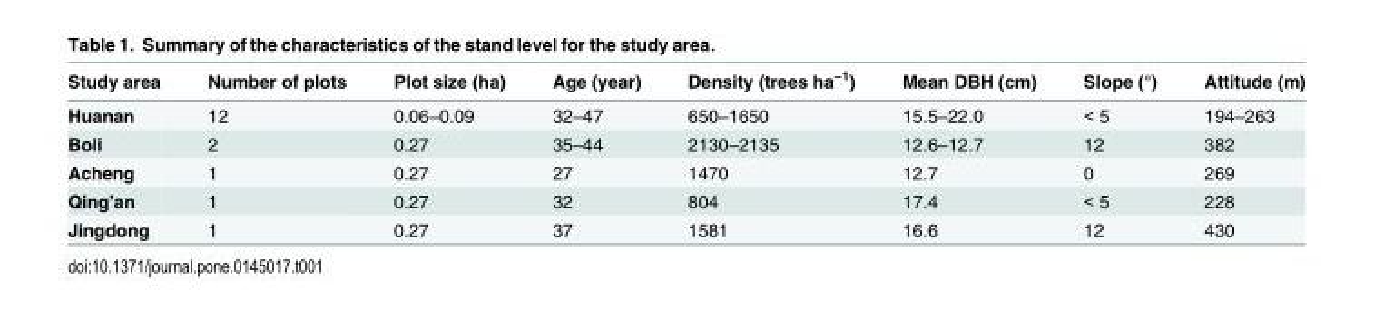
<table><thead><tr><td>Study area</td><td>Number of plots</td><td>Plot size (ha)</td><td>Age (year)</td><td>Density (trees ha<sup>−1</sup>)</td><td>Mean DBH (cm)</td><td>Slope (°)</td><td>Attitude (m)</td></tr></thead><tbody><tr><td>Huanan</td><td>12</td><td>0.06–0.09</td><td>32–47</td><td>650–1650</td><td>15.5–22.0</td><td>&lt; 5</td><td>194–263</td></tr><tr><td>Boli</td><td>2</td><td>0.27</td><td>35–44</td><td>2130–2135</td><td>12.6–12.7</td><td>12</td><td>382</td></tr><tr><td>Acheng</td><td>1</td><td>0.27</td><td>27</td><td>1470</td><td>12.7</td><td>0</td><td>269</td></tr><tr><td>Qing’an</td><td>1</td><td>0.27</td><td>32</td><td>804</td><td>17.4</td><td>&lt; 5</td><td>228</td></tr><tr><td>Jingdong</td><td>1</td><td>0.27</td><td>37</td><td>1581</td><td>16.6</td><td>12</td><td>430</td></tr></tbody></table>